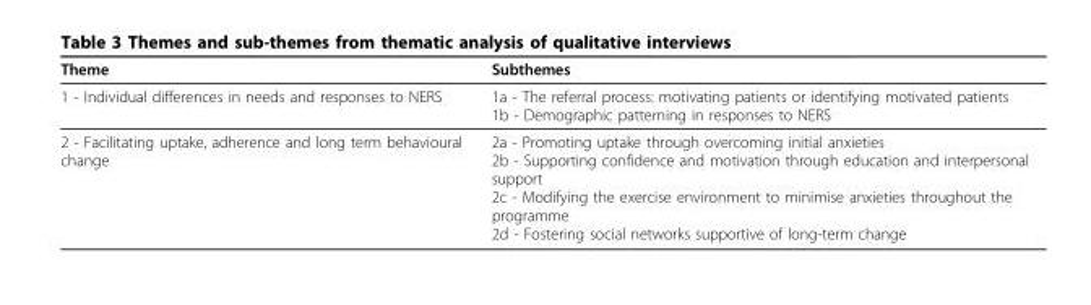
<table><thead><tr><td>Theme</td><td>Subthemes</td></tr></thead><tbody><tr><td>1 - Individual differences in needs and responses to NERS</td><td>1a - The referral process: motivating patients or identifying motivated patients 1b - Demographic patterning in responses to NERS</td></tr><tr><td>2 - Facilitating uptake, adherence and long term behavioural change</td><td>2a - Promoting uptake through overcoming initial anxieties 2b - Supporting confidence and motivation through education and interpersonal support 2c - Modifying the exercise environment to minimise anxieties throughout the programme 2d - Fostering social networks supportive of long-term change</td></tr></tbody></table>